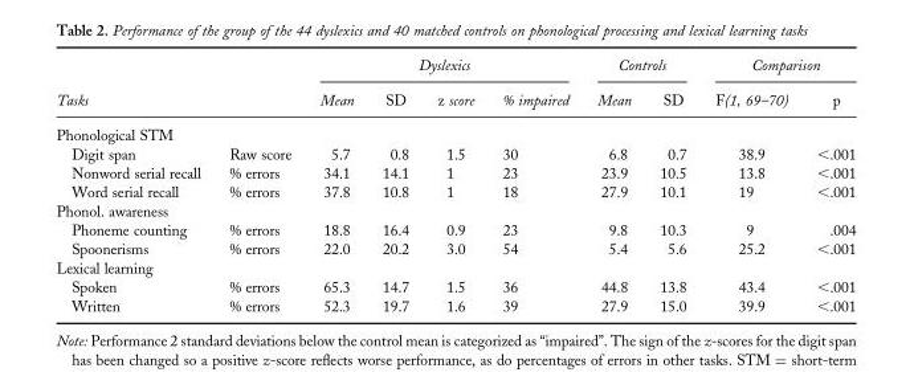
<table><thead><tr><td rowspan="2">Tasks</td><td rowspan="2"></td><td colspan="4">Dyslexics</td><td colspan="2">Controls</td><td colspan="2">Comparison</td></tr><tr><td>Mean</td><td>SD</td><td>z score</td><td>% impaired</td><td>Mean</td><td>SD</td><td>F(1, 69–70)</td><td>p</td></tr></thead><tbody><tr><td colspan="10">Phonological STM</td></tr><tr><td>Digit span</td><td>Raw score</td><td>5.7</td><td>0.8</td><td>1.5</td><td>30</td><td>6.8</td><td>0.7</td><td>38.9</td><td>&lt;.001</td></tr><tr><td>Nonword serial recall</td><td>% errors</td><td>34.1</td><td>14.1</td><td>1</td><td>23</td><td>23.9</td><td>10.5</td><td>13.8</td><td>&lt;.001</td></tr><tr><td>Word serial recall</td><td>% errors</td><td>37.8</td><td>10.8</td><td>1</td><td>18</td><td>27.9</td><td>10.1</td><td>19</td><td>&lt;.001</td></tr><tr><td colspan="10">Phonol. awareness</td></tr><tr><td>Phoneme counting</td><td>% errors</td><td>18.8</td><td>16.4</td><td>0.9</td><td>23</td><td>9.8</td><td>10.3</td><td>9</td><td>.004</td></tr><tr><td>Spoonerisms</td><td>% errors</td><td>22.0</td><td>20.2</td><td>3.0</td><td>54</td><td>5.4</td><td>5.6</td><td>25.2</td><td>&lt;.001</td></tr><tr><td colspan="10">Lexical learning</td></tr><tr><td>Spoken</td><td>% errors</td><td>65.3</td><td>14.7</td><td>1.5</td><td>36</td><td>44.8</td><td>13.8</td><td>43.4</td><td>&lt;.001</td></tr><tr><td>Written</td><td>% errors</td><td>52.3</td><td>19.7</td><td>1.6</td><td>39</td><td>27.9</td><td>15.0</td><td>39.9</td><td>&lt;.001</td></tr></tbody></table>